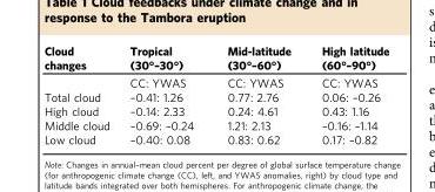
<table><thead><tr><td>Cloud changes</td><td>Tropical (30°–30°)</td><td>Mid-latitude (30°–60°)</td><td>High latitude (60°–90°)</td></tr></thead><tbody><tr><td></td><td>CC: YWAS</td><td>CC: YWAS</td><td>CC: YWAS</td></tr><tr><td>Total cloud</td><td>–0.41: 1.26</td><td>0.77: 2.76</td><td>0.06: –0.26</td></tr><tr><td>High cloud</td><td>–0.14: 2.33</td><td>0.24: 4.61</td><td>0.43: 1.16</td></tr><tr><td>Middle cloud</td><td>–0.69: –0.24</td><td>1.21: 2.13</td><td>–0.16: –1.14</td></tr><tr><td>Low cloud</td><td>–0.40: 0.08</td><td>0.83: 0.62</td><td>0.17: –0.82</td></tr></tbody></table>